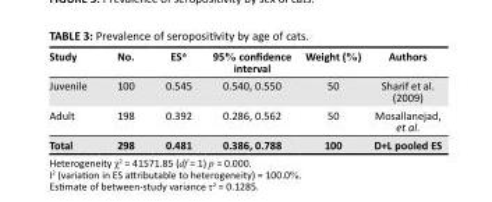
<table><thead><tr><td>Study</td><td>No.</td><td>ES*</td><td>95% confidence interval</td><td>Weight (%)</td><td>Authors</td></tr></thead><tbody><tr><td>Juvenile</td><td>100</td><td>0.545</td><td>0.540, 0.550</td><td>50</td><td>Sharif et al. (2009)</td></tr><tr><td>Adult</td><td>198</td><td>0.392</td><td>0.286, 0.562</td><td>50</td><td>Mosallanejad, et al.</td></tr><tr><td>Total</td><td>298</td><td>0.481</td><td>0.386, 0.788</td><td>100</td><td>D+L pooled ES</td></tr></tbody></table>